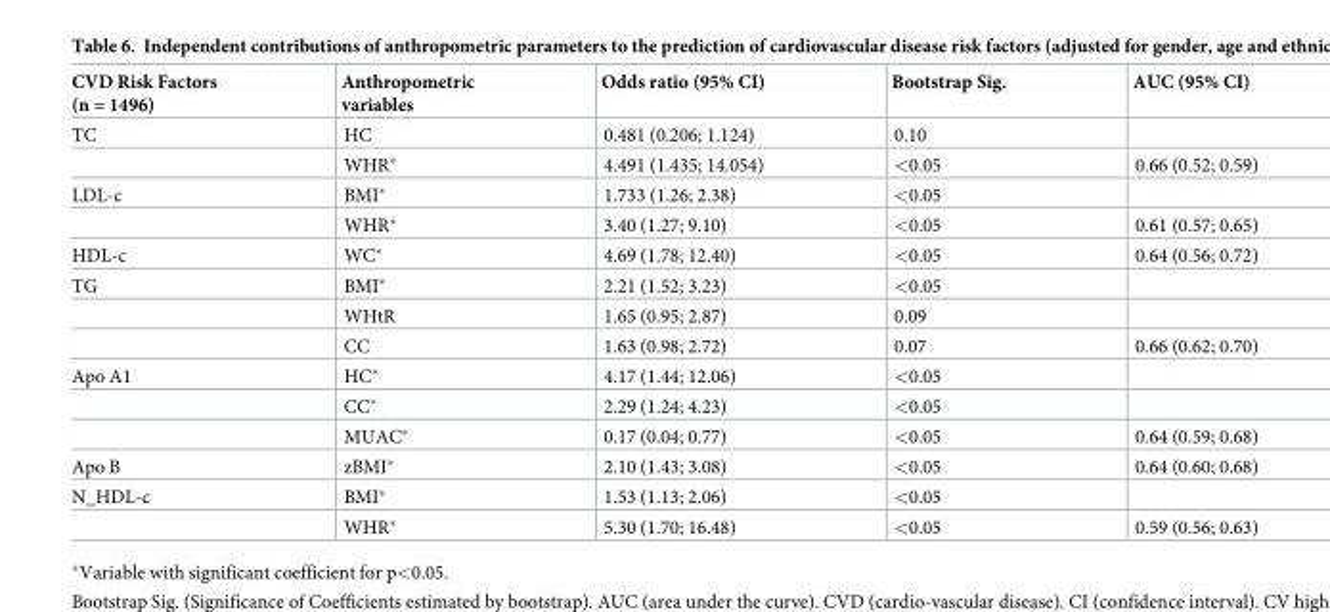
<table><thead><tr><td>CVD Risk Factors (n = 1496)</td><td>Anthropometric variables</td><td>Odds ratio (95% CI)</td><td>Bootstrap Sig.</td><td>AUC (95% CI)</td></tr></thead><tbody><tr><td rowspan="2">TC</td><td>HC</td><td>0.481 (0.206; 1.124)</td><td>0.10</td><td></td></tr><tr><td>WHR*</td><td>4.491 (1.435; 14.054)</td><td>&lt;0.05</td><td>0.66 (0.52; 0.59)</td></tr><tr><td rowspan="2">LDL-c</td><td>BMI*</td><td>1.733 (1.26; 2.38)</td><td>&lt;0.05</td><td></td></tr><tr><td>WHR*</td><td>3.40 (1.27; 9.10)</td><td>&lt;0.05</td><td>0.61 (0.57; 0.65)</td></tr><tr><td>HDL-c</td><td>WC*</td><td>4.69 (1.78; 12.40)</td><td>&lt;0.05</td><td>0.64 (0.56; 0.72)</td></tr><tr><td rowspan="3">TG</td><td>BMI*</td><td>2.21 (1.52; 3.23)</td><td>&lt;0.05</td><td></td></tr><tr><td>WHtR</td><td>1.65 (0.95; 2.87)</td><td>0.09</td><td></td></tr><tr><td>CC</td><td>1.63 (0.98; 2.72)</td><td>0.07</td><td>0.66 (0.62; 0.70)</td></tr><tr><td rowspan="3">Apo A1</td><td>HC*</td><td>4.17 (1.44; 12.06)</td><td>&lt;0.05</td><td></td></tr><tr><td>CC*</td><td>2.29 (1.24; 4.23)</td><td>&lt;0.05</td><td></td></tr><tr><td>MUAC*</td><td>0.17 (0.04; 0.77)</td><td>&lt;0.05</td><td>0.64 (0.59; 0.68)</td></tr><tr><td>Apo B</td><td>zBMI*</td><td>2.10 (1.43; 3.08)</td><td>&lt;0.05</td><td>0.64 (0.60; 0.68)</td></tr><tr><td rowspan="2">N_HDL-c</td><td>BMI*</td><td>1.53 (1.13; 2.06)</td><td>&lt;0.05</td><td></td></tr><tr><td>WHR*</td><td>5.30 (1.70; 16.48)</td><td>&lt;0.05</td><td>0.59 (0.56; 0.63)</td></tr></tbody></table>